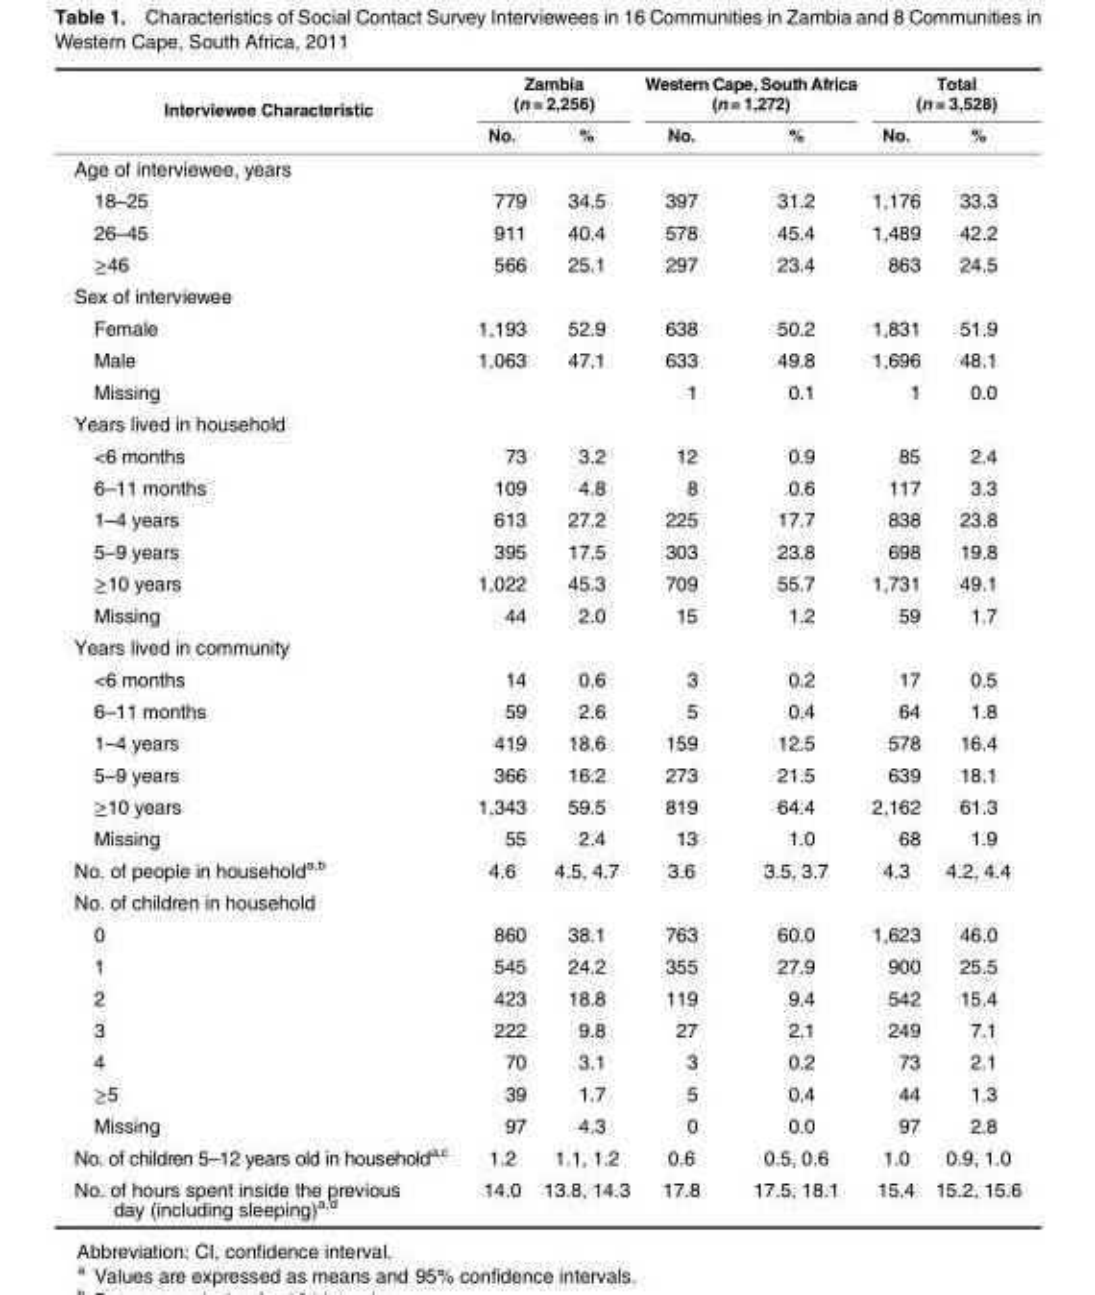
<table><thead><tr><td rowspan="2">Interviewee Characteristic</td><td colspan="2">Zambia (n = 2,256)</td><td colspan="2">Western Cape, South Africa (n = 1,272)</td><td colspan="2">Total (n = 3,528)</td></tr><tr><td>No.</td><td>%</td><td>No.</td><td>%</td><td>No.</td><td>%</td></tr></thead><tbody><tr><td colspan="7">Age of interviewee, years</td></tr><tr><td>18–25</td><td>779</td><td>34.5</td><td>397</td><td>31.2</td><td>1,176</td><td>33.3</td></tr><tr><td>26–45</td><td>911</td><td>40.4</td><td>578</td><td>45.4</td><td>1,489</td><td>42.2</td></tr><tr><td>≥46</td><td>566</td><td>25.1</td><td>297</td><td>23.4</td><td>863</td><td>24.5</td></tr><tr><td colspan="7">Sex of interviewee</td></tr><tr><td>Female</td><td>1,193</td><td>52.9</td><td>638</td><td>50.2</td><td>1,831</td><td>51.9</td></tr><tr><td>Male</td><td>1,063</td><td>47.1</td><td>633</td><td>49.8</td><td>1,696</td><td>48.1</td></tr><tr><td>Missing</td><td></td><td></td><td>1</td><td>0.1</td><td>1</td><td>0.0</td></tr><tr><td colspan="7">Years lived in household</td></tr><tr><td>&lt;6 months</td><td>73</td><td>3.2</td><td>12</td><td>0.9</td><td>85</td><td>2.4</td></tr><tr><td>6–11 months</td><td>109</td><td>4.8</td><td>8</td><td>0.6</td><td>117</td><td>3.3</td></tr><tr><td>1–4 years</td><td>613</td><td>27.2</td><td>225</td><td>17.7</td><td>838</td><td>23.8</td></tr><tr><td>5–9 years</td><td>395</td><td>17.5</td><td>303</td><td>23.8</td><td>698</td><td>19.8</td></tr><tr><td>≥10 years</td><td>1,022</td><td>45.3</td><td>709</td><td>55.7</td><td>1,731</td><td>49.1</td></tr><tr><td>Missing</td><td>44</td><td>2.0</td><td>15</td><td>1.2</td><td>59</td><td>1.7</td></tr><tr><td colspan="7">Years lived in community</td></tr><tr><td>&lt;6 months</td><td>14</td><td>0.6</td><td>3</td><td>0.2</td><td>17</td><td>0.5</td></tr><tr><td>6–11 months</td><td>59</td><td>2.6</td><td>5</td><td>0.4</td><td>64</td><td>1.8</td></tr><tr><td>1–4 years</td><td>419</td><td>18.6</td><td>159</td><td>12.5</td><td>578</td><td>16.4</td></tr><tr><td>5–9 years</td><td>366</td><td>16.2</td><td>273</td><td>21.5</td><td>639</td><td>18.1</td></tr><tr><td>≥10 years</td><td>1,343</td><td>59.5</td><td>819</td><td>64.4</td><td>2,162</td><td>61.3</td></tr><tr><td>Missing</td><td>55</td><td>2.4</td><td>13</td><td>1.0</td><td>68</td><td>1.9</td></tr><tr><td>No. of people in household<sup>a,b</sup></td><td>4.6</td><td>4.5, 4.7</td><td>3.6</td><td>3.5, 3.7</td><td>4.3</td><td>4.2, 4.4</td></tr><tr><td colspan="7">No. of children in household</td></tr><tr><td>0</td><td>860</td><td>38.1</td><td>763</td><td>60.0</td><td>1,623</td><td>46.0</td></tr><tr><td>1</td><td>545</td><td>24.2</td><td>355</td><td>27.9</td><td>900</td><td>25.5</td></tr><tr><td>2</td><td>423</td><td>18.8</td><td>119</td><td>9.4</td><td>542</td><td>15.4</td></tr><tr><td>3</td><td>222</td><td>9.8</td><td>27</td><td>2.1</td><td>249</td><td>7.1</td></tr><tr><td>4</td><td>70</td><td>3.1</td><td>3</td><td>0.2</td><td>73</td><td>2.1</td></tr><tr><td>≥5</td><td>39</td><td>1.7</td><td>5</td><td>0.4</td><td>44</td><td>1.3</td></tr><tr><td>Missing</td><td>97</td><td>4.3</td><td>0</td><td>0.0</td><td>97</td><td>2.8</td></tr><tr><td>No. of children 5–12 years old in household<sup>a,c</sup></td><td>1.2</td><td>1.1, 1.2</td><td>0.6</td><td>0.5, 0.6</td><td>1.0</td><td>0.9, 1.0</td></tr><tr><td>No. of hours spent inside the previous day (including sleeping)<sup>a,d</sup></td><td>14.0</td><td>13.8, 14.3</td><td>17.8</td><td>17.5, 18.1</td><td>15.4</td><td>15.2, 15.6</td></tr></tbody></table>